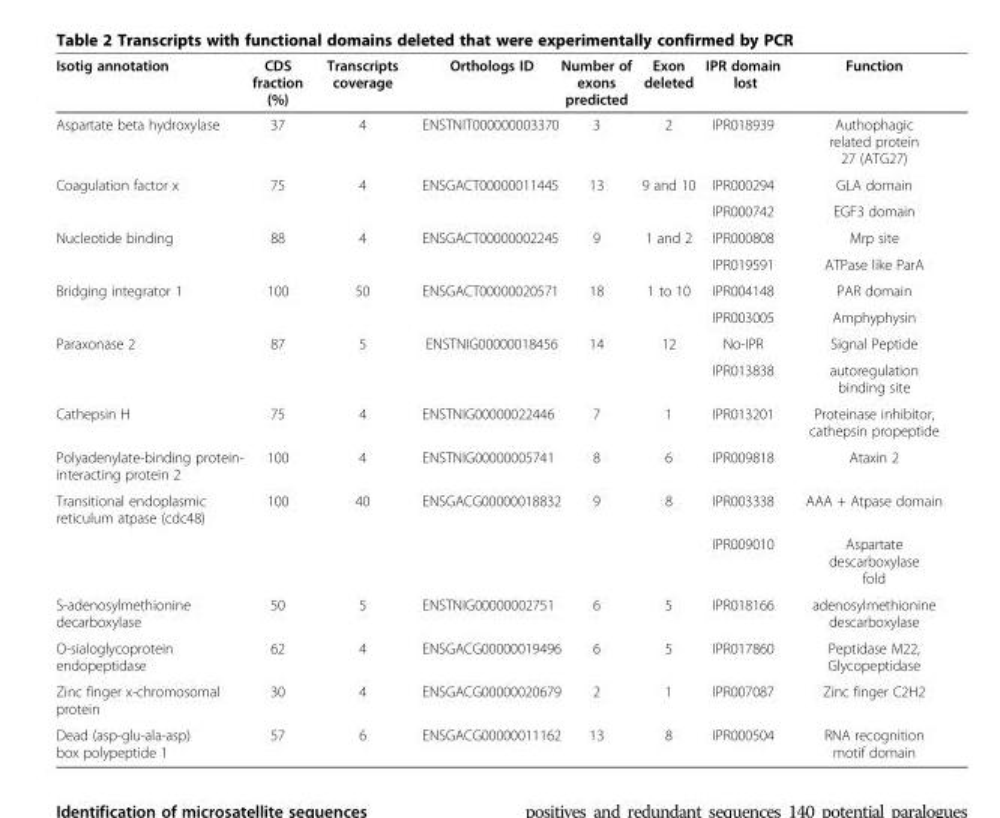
<table><thead><tr><td>Isotig annotation</td><td>CDS fraction (%)</td><td>Transcripts coverage</td><td>Orthologs ID</td><td>Number of exons predicted</td><td>Exon deleted</td><td>IPR domain lost</td><td>Function</td></tr></thead><tbody><tr><td>Aspartate beta hydroxylase</td><td>37</td><td>4</td><td>ENSTNIT000000003370</td><td>3</td><td>2</td><td>IPR018939</td><td>Authophagic related protein 27 (ATG27)</td></tr><tr><td rowspan="2">Coagulation factor x</td><td>75</td><td>4</td><td>ENSGACT00000011445</td><td>13</td><td>9 and 10</td><td>IPR000294</td><td>GLA domain</td></tr><tr><td></td><td></td><td></td><td></td><td></td><td>IPR000742</td><td>EGF3 domain</td></tr><tr><td rowspan="2">Nucleotide binding</td><td>88</td><td>4</td><td>ENSGACT00000002245</td><td>9</td><td>1 and 2</td><td>IPR000808</td><td>Mrp site</td></tr><tr><td></td><td></td><td></td><td></td><td></td><td>IPR019591</td><td>ATPase like ParA</td></tr><tr><td rowspan="2">Bridging integrator 1</td><td>100</td><td>50</td><td>ENSGACT00000020571</td><td>18</td><td>1 to 10</td><td>IPR004148</td><td>PAR domain</td></tr><tr><td></td><td></td><td></td><td></td><td></td><td>IPR003005</td><td>Amphyphysin</td></tr><tr><td rowspan="2">Paraxonase 2</td><td>87</td><td>5</td><td>ENSTNIG00000018456</td><td>14</td><td>12</td><td>No-IPR</td><td>Signal Peptide</td></tr><tr><td></td><td></td><td></td><td></td><td></td><td>IPR013838</td><td>autoregulation binding site</td></tr><tr><td>Cathepsin H</td><td>75</td><td>4</td><td>ENSTNIG00000022446</td><td>7</td><td>1</td><td>IPR013201</td><td>Proteinase inhibitor, cathepsin propeptide</td></tr><tr><td>Polyadenylate-binding protein- interacting protein 2</td><td>100</td><td>4</td><td>ENSTNIG00000005741</td><td>8</td><td>6</td><td>IPR009818</td><td>Ataxin 2</td></tr><tr><td rowspan="2">Transitional endoplasmic reticulum atpase (cdc48)</td><td>100</td><td>40</td><td>ENSGACG00000018832</td><td>9</td><td>8</td><td>IPR003338</td><td>AAA + Atpase domain</td></tr><tr><td></td><td></td><td></td><td></td><td></td><td>IPR009010</td><td>Aspartate descarboxylase fold</td></tr><tr><td>S-adenosylmethionine decarboxylase</td><td>50</td><td>5</td><td>ENSTNIG00000002751</td><td>6</td><td>5</td><td>IPR018166</td><td>adenosylmethionine descarboxylase</td></tr><tr><td>O-sialoglycoprotein endopeptidase</td><td>62</td><td>4</td><td>ENSGACG00000019496</td><td>6</td><td>5</td><td>IPR017860</td><td>Peptidase M22, Glycopeptidase</td></tr><tr><td>Zinc finger x-chromosomal protein</td><td>30</td><td>4</td><td>ENSGACG00000020679</td><td>2</td><td>1</td><td>IPR007087</td><td>Zinc finger C2H2</td></tr><tr><td>Dead (asp-glu-ala-asp) box polypeptide 1</td><td>57</td><td>6</td><td>ENSGACG00000011162</td><td>13</td><td>8</td><td>IPR000504</td><td>RNA recognition motif domain</td></tr></tbody></table>